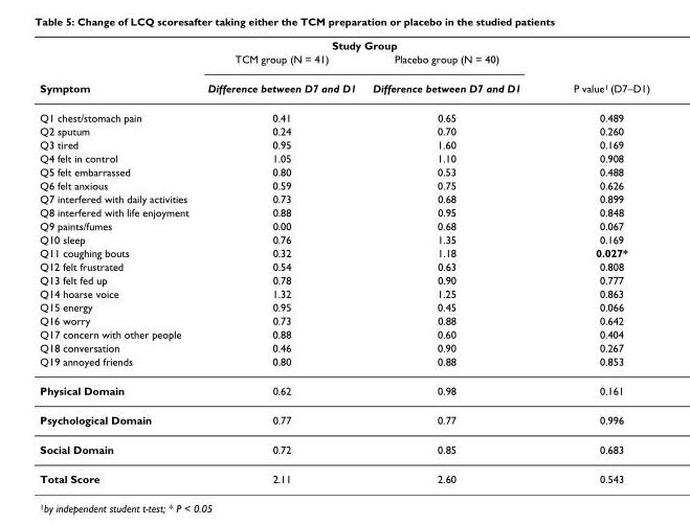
<table><thead><tr><td rowspan="3">Symptom</td><td colspan="2">Study Group</td><td rowspan="3">P value<sup>1</sup> (D7–D1)</td></tr><tr><td rowspan="2">TCM group (N = 41) Difference between D7 and D1</td><td rowspan="2">Placebo group (N = 40) Difference between D7 and D1</td></tr><tr></tr></thead><tbody><tr><td>Q1 chest/stomach pain</td><td>0.41</td><td>0.65</td><td>0.489</td></tr><tr><td>Q2 sputum</td><td>0.24</td><td>0.70</td><td>0.260</td></tr><tr><td>Q3 tired</td><td>0.95</td><td>1.60</td><td>0.169</td></tr><tr><td>Q4 felt in control</td><td>1.05</td><td>1.10</td><td>0.908</td></tr><tr><td>Q5 felt embarrassed</td><td>0.80</td><td>0.53</td><td>0.488</td></tr><tr><td>Q6 felt anxious</td><td>0.59</td><td>0.75</td><td>0.626</td></tr><tr><td>Q7 interfered with daily activities</td><td>0.73</td><td>0.68</td><td>0.899</td></tr><tr><td>Q8 interfered with life enjoyment</td><td>0.88</td><td>0.95</td><td>0.848</td></tr><tr><td>Q9 paints/fumes</td><td>0.00</td><td>0.68</td><td>0.067</td></tr><tr><td>Q10 sleep</td><td>0.76</td><td>1.35</td><td>0.169</td></tr><tr><td>Q11 coughing bouts</td><td>0.32</td><td>1.18</td><td>0.027*</td></tr><tr><td>Q12 felt frustrated</td><td>0.54</td><td>0.63</td><td>0.808</td></tr><tr><td>Q13 felt fed up</td><td>0.78</td><td>0.90</td><td>0.777</td></tr><tr><td>Q14 hoarse voice</td><td>1.32</td><td>1.25</td><td>0.863</td></tr><tr><td>Q15 energy</td><td>0.95</td><td>0.45</td><td>0.066</td></tr><tr><td>Q16 worry</td><td>0.73</td><td>0.88</td><td>0.642</td></tr><tr><td>Q17 concern with other people</td><td>0.88</td><td>0.60</td><td>0.404</td></tr><tr><td>Q18 conversation</td><td>0.46</td><td>0.90</td><td>0.267</td></tr><tr><td>Q19 annoyed friends</td><td>0.80</td><td>0.88</td><td>0.853</td></tr><tr><td>Physical Domain</td><td>0.62</td><td>0.98</td><td>0.161</td></tr><tr><td>Psychological Domain</td><td>0.77</td><td>0.77</td><td>0.996</td></tr><tr><td>Social Domain</td><td>0.72</td><td>0.85</td><td>0.683</td></tr><tr><td>Total Score</td><td>2.11</td><td>2.60</td><td>0.543</td></tr></tbody></table>